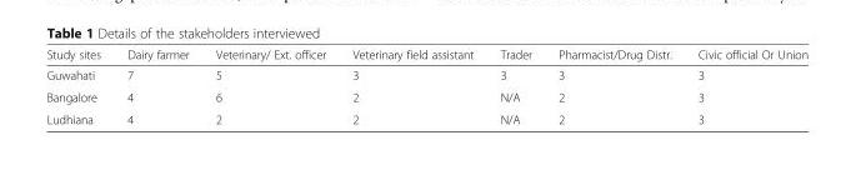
<table><thead><tr><td>Study sites</td><td>Dairy farmer</td><td>Veterinary/ Ext. officer</td><td>Veterinary field assistant</td><td>Trader</td><td>Pharmacist/Drug Distr.</td><td>Civic official Or Union</td></tr></thead><tbody><tr><td>Guwahati</td><td>7</td><td>5</td><td>3</td><td>3</td><td>3</td><td>3</td></tr><tr><td>Bangalore</td><td>4</td><td>6</td><td>2</td><td>N/A</td><td>2</td><td>3</td></tr><tr><td>Ludhiana</td><td>4</td><td>2</td><td>2</td><td>N/A</td><td>2</td><td>3</td></tr></tbody></table>